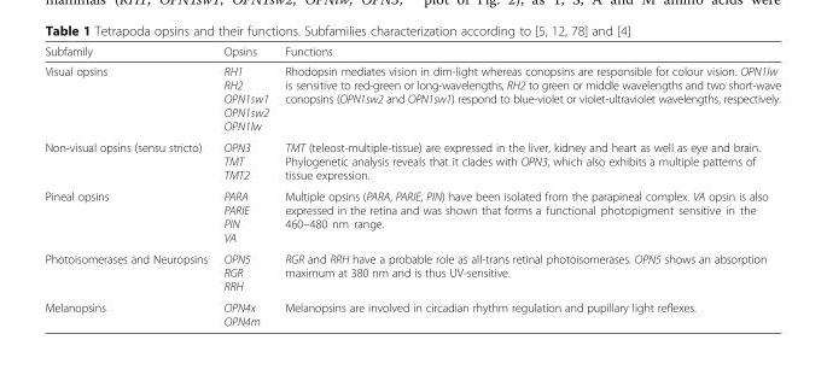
<table><thead><tr><td>Subfamily</td><td>Opsins</td><td>Functions</td></tr></thead><tbody><tr><td>Visual opsins</td><td>RH1 RH2 OPN1sw1 OPN1sw2 OPN1lw</td><td>Rhodopsin mediates vision in dim-light whereas conopsins are responsible for colour vision. OPN1lw is sensitive to red-green or long-wavelengths, RH2 to green or middle wavelengths and two short-wave conopsins (OPN1sw2 and OPN1sw1) respond to blue-violet or violet-ultraviolet wavelengths, respectively.</td></tr><tr><td>Non-visual opsins (sensu stricto)</td><td>OPN3 TMT TMT2</td><td>TMT (teleost-multiple-tissue) are expressed in the liver, kidney and heart as well as eye and brain. Phylogenetic analysis reveals that it clades with OPN3, which also exhibits a multiple patterns of tissue expression.</td></tr><tr><td>Pineal opsins</td><td>PARA PARIE PIN VA</td><td>Multiple opsins (PARA, PARIE, PIN) have been isolated from the parapineal complex. VA opsin is also expressed in the retina and was shown that forms a functional photopigment sensitive in the 460–480 nm range.</td></tr><tr><td>Photoisomerases and Neuropsins</td><td>OPN5 RGR RRH</td><td>RGR and RRH have a probable role as all-trans retinal photoisomerases. OPN5 shows an absorption maximum at 380 nm and is thus UV-sensitive.</td></tr><tr><td>Melanopsins</td><td>OPN4x OPN4m</td><td>Melanopsins are involved in circadian rhythm regulation and pupillary light reflexes.</td></tr></tbody></table>